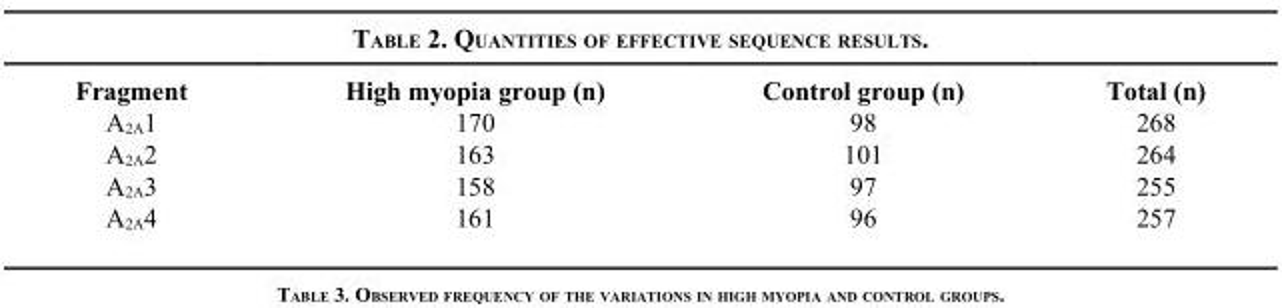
<table><thead><tr><td>Fragment</td><td>High myopia group (n)</td><td>Control group (n)</td><td>Total (n)</td></tr></thead><tbody><tr><td>A<sub>2A</sub>1</td><td>170</td><td>98</td><td>268</td></tr><tr><td>A<sub>2A</sub>2</td><td>163</td><td>101</td><td>264</td></tr><tr><td>A<sub>2A</sub>3</td><td>158</td><td>97</td><td>255</td></tr><tr><td>A<sub>2A</sub>4</td><td>161</td><td>96</td><td>257</td></tr></tbody></table>